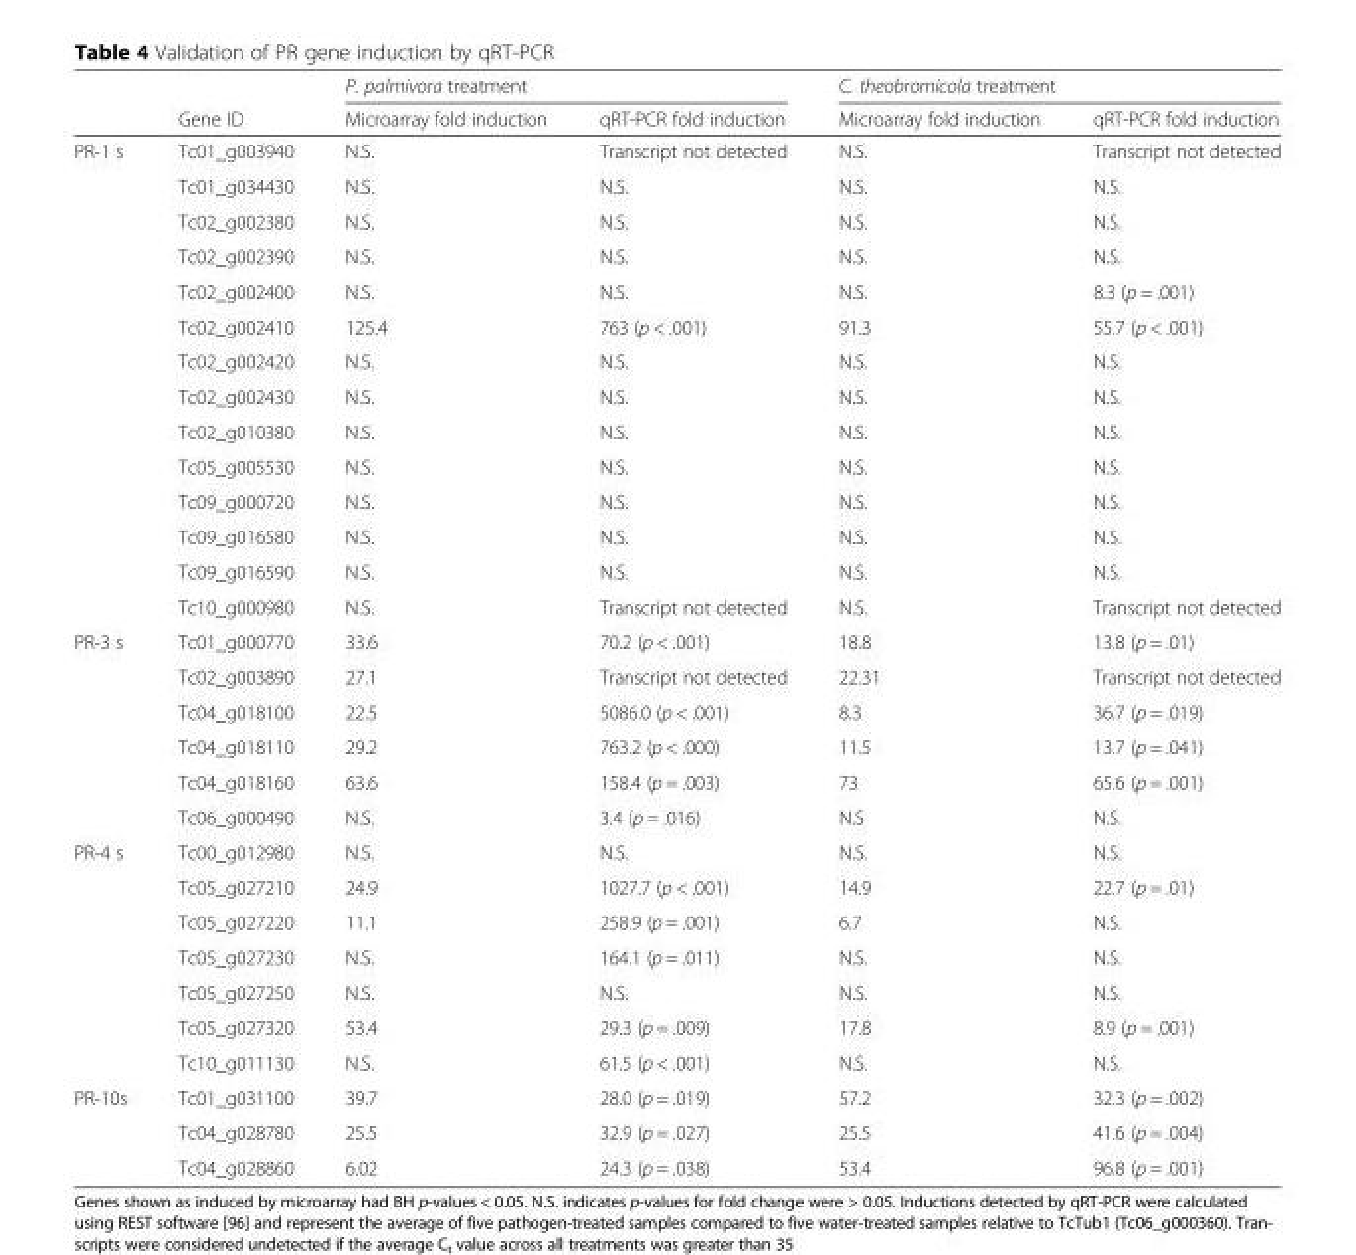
<table><thead><tr><td rowspan="2"></td><td rowspan="2">Gene ID</td><td colspan="2">P. palmivora treatment</td><td colspan="2">C. theobromicola treatment</td></tr><tr><td>Microarray fold induction</td><td>qRT-PCR fold induction</td><td>Microarray fold induction</td><td>qRT-PCR fold induction</td></tr></thead><tbody><tr><td rowspan="14">PR-1 s</td><td>Tc01_g003940</td><td>N.S.</td><td>Transcript not detected</td><td>N.S.</td><td>Transcript not detected</td></tr><tr><td>Tc01_g034430</td><td>N.S.</td><td>N.S.</td><td>N.S.</td><td>N.S.</td></tr><tr><td>Tc02_g002380</td><td>N.S.</td><td>N.S.</td><td>N.S.</td><td>N.S.</td></tr><tr><td>Tc02_g002390</td><td>N.S.</td><td>N.S.</td><td>N.S.</td><td>N.S.</td></tr><tr><td>Tc02_g002400</td><td>N.S.</td><td>N.S.</td><td>N.S.</td><td>8.3 (p = .001)</td></tr><tr><td>Tc02_g002410</td><td>125.4</td><td>763 (p &lt; .001)</td><td>91.3</td><td>55.7 (p &lt; .001)</td></tr><tr><td>Tc02_g002420</td><td>N.S.</td><td>N.S.</td><td>N.S.</td><td>N.S.</td></tr><tr><td>Tc02_g002430</td><td>N.S.</td><td>N.S.</td><td>N.S.</td><td>N.S.</td></tr><tr><td>Tc02_g010380</td><td>N.S.</td><td>N.S.</td><td>N.S.</td><td>N.S.</td></tr><tr><td>Tc05_g005530</td><td>N.S.</td><td>N.S.</td><td>N.S.</td><td>N.S.</td></tr><tr><td>Tc09_g000720</td><td>N.S.</td><td>N.S.</td><td>N.S.</td><td>N.S.</td></tr><tr><td>Tc09_g016580</td><td>N.S.</td><td>N.S.</td><td>N.S.</td><td>N.S.</td></tr><tr><td>Tc09_g016590</td><td>N.S.</td><td>N.S.</td><td>N.S.</td><td>N.S.</td></tr><tr><td>Tc10_g000980</td><td>N.S.</td><td>Transcript not detected</td><td>N.S.</td><td>Transcript not detected</td></tr><tr><td rowspan="6">PR-3 s</td><td>Tc01_g000770</td><td>33.6</td><td>70.2 (p &lt; .001)</td><td>18.8</td><td>13.8 (p = .01)</td></tr><tr><td>Tc02_g003890</td><td>27.1</td><td>Transcript not detected</td><td>22.31</td><td>Transcript not detected</td></tr><tr><td>Tc04_g018100</td><td>22.5</td><td>5086.0 (p &lt; .001)</td><td>8.3</td><td>36.7 (p = .019)</td></tr><tr><td>Tc04_g018110</td><td>29.2</td><td>763.2 (p &lt; .000)</td><td>11.5</td><td>13.7 (p = .041)</td></tr><tr><td>Tc04_g018160</td><td>63.6</td><td>158.4 (p = .003)</td><td>73</td><td>65.6 (p = .001)</td></tr><tr><td>Tc06_g000490</td><td>N.S.</td><td>3.4 (p = .016)</td><td>N.S</td><td>N.S.</td></tr><tr><td rowspan="7">PR-4 s</td><td>Tc00_g012980</td><td>N.S.</td><td>N.S.</td><td>N.S.</td><td>N.S.</td></tr><tr><td>Tc05_g027210</td><td>24.9</td><td>1027.7 (p &lt; .001)</td><td>14.9</td><td>22.7 (p = .01)</td></tr><tr><td>Tc05_g027220</td><td>11.1</td><td>258.9 (p = .001)</td><td>6.7</td><td>N.S.</td></tr><tr><td>Tc05_g027230</td><td>N.S.</td><td>164.1 (p = .011)</td><td>N.S.</td><td>N.S.</td></tr><tr><td>Tc05_g027250</td><td>N.S.</td><td>N.S.</td><td>N.S.</td><td>N.S.</td></tr><tr><td>Tc05_g027320</td><td>53.4</td><td>29.3 (p = .009)</td><td>17.8</td><td>8.9 (p = .001)</td></tr><tr><td>Tc10_g011130</td><td>N.S.</td><td>61.5 (p &lt; .001)</td><td>N.S.</td><td>N.S.</td></tr><tr><td rowspan="3">PR-10s</td><td>Tc01_g031100</td><td>39.7</td><td>28.0 (p = .019)</td><td>57.2</td><td>32.3 (p = .002)</td></tr><tr><td>Tc04_g028780</td><td>25.5</td><td>32.9 (p = .027)</td><td>25.5</td><td>41.6 (p = .004)</td></tr><tr><td>Tc04_g028860</td><td>6.02</td><td>24.3 (p = .038)</td><td>53.4</td><td>96.8 (p = .001)</td></tr></tbody></table>